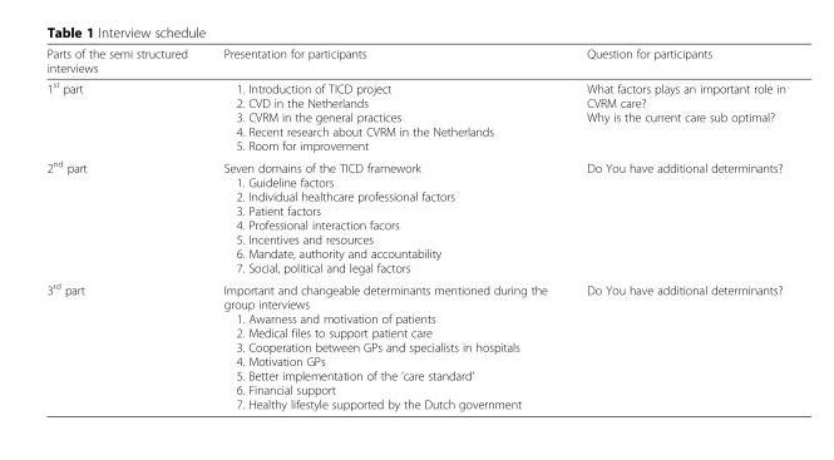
<table><thead><tr><td>Parts of the semi structured interviews</td><td>Presentation for participants</td><td>Question for participants</td></tr></thead><tbody><tr><td>1<sup>st</sup> part</td><td>1. Introduction of TICD project 2. CVD in the Netherlands 3. CVRM in the general practices 4. Recent research about CVRM in the Netherlands 5. Room for improvement</td><td>What factors plays an important role in CVRM care? Why is the current care sub optimal?</td></tr><tr><td>2<sup>nd</sup> part</td><td>Seven domains of the TICD framework 1. Guideline factors 2. Individual healthcare professional factors 3. Patient factors 4. Professional interaction facors 5. Incentives and resources 6. Mandate, authority and accountability 7. Social, political and legal factors</td><td>Do You have additional determinants?</td></tr><tr><td>3<sup>rd</sup> part</td><td>Important and changeable determinants mentioned during the group interviews 1. Awarness and motivation of patients 2. Medical files to support patient care 3. Cooperation between GPs and specialists in hospitals 4. Motivation GPs 5. Better implementation of the ‘care standard’ 6. Financial support 7. Healthy lifestyle supported by the Dutch government</td><td>Do You have additional determinants?</td></tr></tbody></table>